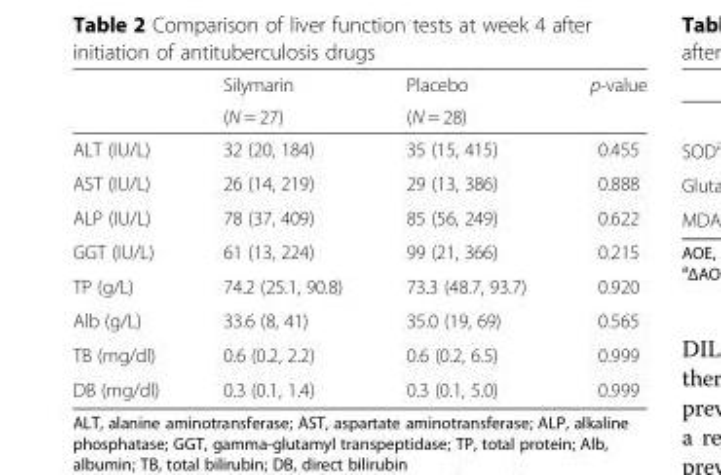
<table><thead><tr><td rowspan="2"></td><td rowspan="2">Silymarin (N = 27)</td><td rowspan="2">Placebo (N = 28)</td><td rowspan="2">p-value</td></tr><tr></tr></thead><tbody><tr><td>ALT (IU/L)</td><td>32 (20, 184)</td><td>35 (15, 415)</td><td>0.455</td></tr><tr><td>AST (IU/L)</td><td>26 (14, 219)</td><td>29 (13, 386)</td><td>0.888</td></tr><tr><td>ALP (IU/L)</td><td>78 (37, 409)</td><td>85 (56, 249)</td><td>0.622</td></tr><tr><td>GGT (IU/L)</td><td>61 (13, 224)</td><td>99 (21, 366)</td><td>0.215</td></tr><tr><td>TP (g/L)</td><td>74.2 (25.1, 90.8)</td><td>73.3 (48.7, 93.7)</td><td>0.920</td></tr><tr><td>Alb (g/L)</td><td>33.6 (8, 41)</td><td>35.0 (19, 69)</td><td>0.565</td></tr><tr><td>TB (mg/dl)</td><td>0.6 (0.2, 2.2)</td><td>0.6 (0.2, 6.5)</td><td>0.999</td></tr><tr><td>DB (mg/dl)</td><td>0.3 (0.1, 1.4)</td><td>0.3 (0.1, 5.0)</td><td>0.999</td></tr></tbody></table>